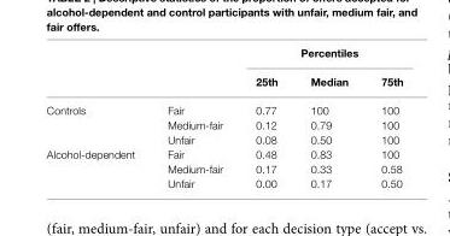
<table><thead><tr><td rowspan="2"></td><td rowspan="2"></td><td colspan="3">Percentiles</td></tr><tr><td>25th</td><td>Median</td><td>75th</td></tr></thead><tbody><tr><td rowspan="3">Controls</td><td>Fair</td><td>0.77</td><td>100</td><td>100</td></tr><tr><td>Medium-fair</td><td>0.12</td><td>0.79</td><td>100</td></tr><tr><td>Unfair</td><td>0.08</td><td>0.50</td><td>100</td></tr><tr><td rowspan="3">Alcohol-dependent</td><td>Fair</td><td>0.48</td><td>0.83</td><td>100</td></tr><tr><td>Medium-fair</td><td>0.17</td><td>0.33</td><td>0.58</td></tr><tr><td>Unfair</td><td>0.00</td><td>0.17</td><td>0.50</td></tr></tbody></table>